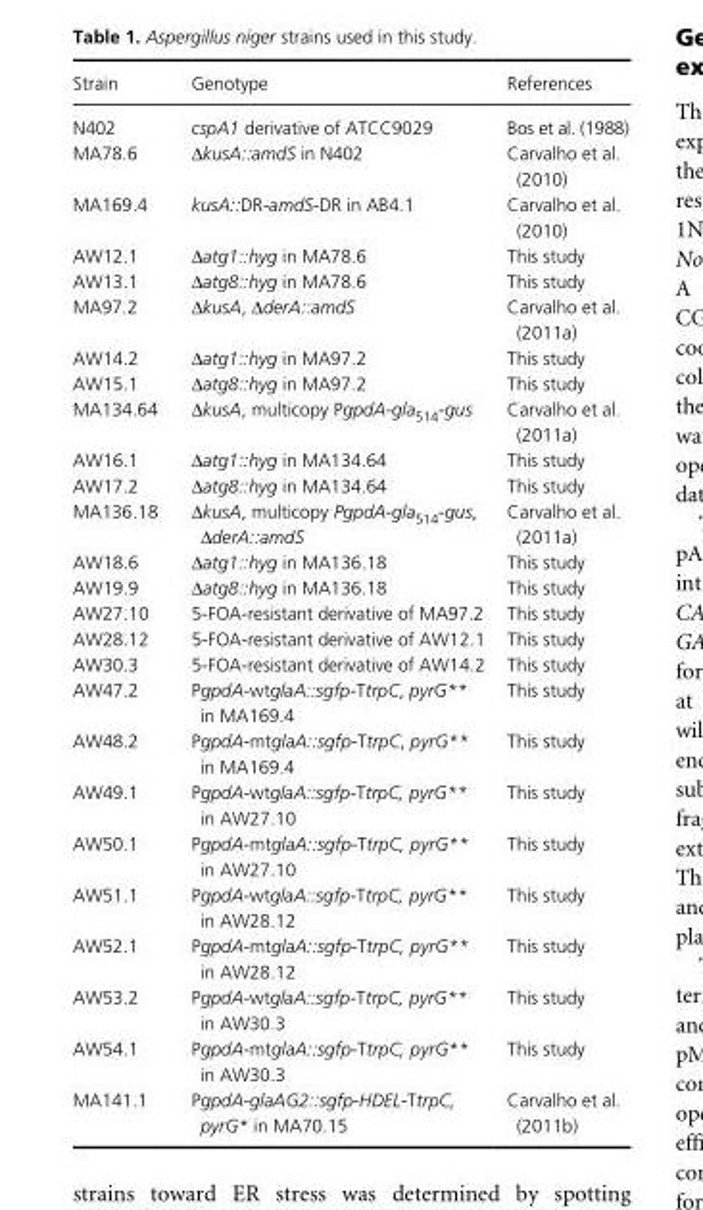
<table><thead><tr><td>Strain</td><td>Genotype</td><td>References</td></tr></thead><tbody><tr><td>N402</td><td>cspA1 derivative of ATCC9029</td><td>Bos et al. (1988)</td></tr><tr><td>MA78.6</td><td>ΔkusA::amdS in N402</td><td>Carvalho et al. (2010)</td></tr><tr><td>MA169.4</td><td>kusA::DR-amdS-DR in AB4.1</td><td>Carvalho et al. (2010)</td></tr><tr><td>AW12.1</td><td>Δatg1::hyg in MA78.6</td><td>This study</td></tr><tr><td>AW13.1</td><td>Δatg8::hyg in MA78.6</td><td>This study</td></tr><tr><td>MA97.2</td><td>ΔkusA, ΔderA::amdS</td><td>Carvalho et al. (2011a)</td></tr><tr><td>AW14.2</td><td>Δatg1::hyg in MA97.2</td><td>This study</td></tr><tr><td>AW15.1</td><td>Δatg8::hyg in MA97.2</td><td>This study</td></tr><tr><td>MA134.64</td><td>ΔkusA, multicopy PgpdA- gla<sub>514</sub>- gus</td><td>Carvalho et al. (2011a)</td></tr><tr><td>AW16.1</td><td>Δatg1::hyg in MA134.64</td><td>This study</td></tr><tr><td>AW17.2</td><td>Δatg8::hyg in MA134.64</td><td>This study</td></tr><tr><td>MA136.18</td><td>ΔkusA, multicopy PgpdA-gla<sub>514</sub>- gus, ΔderA::amdS</td><td>Carvalho et al. (2011a)</td></tr><tr><td>AW18.6</td><td>Δatg1::hyg in MA136.18</td><td>This study</td></tr><tr><td>AW19.9</td><td>Δatg8::hyg in MA136.18</td><td>This study</td></tr><tr><td>AW27.10</td><td>5-FOA- resistant derivative of MA97.2</td><td>This study</td></tr><tr><td>AW28.12</td><td>5-FOA- resistant derivative of AW12.1</td><td>This study</td></tr><tr><td>AW30.3</td><td>5-FOA- resistant derivative of AW14.2</td><td>This study</td></tr><tr><td>AW47.2</td><td>PgpdA-wtglaA::sgfp-TtrpC, pyrG** in MA169.4</td><td>This study</td></tr><tr><td>AW48.2</td><td>PgpdA-mtglaA::sgfp-TtrpC, pyrG** in MA169.4</td><td>This study</td></tr><tr><td>AW49.1</td><td>PgpdA-wtglaA::sgfp-TtrpC, pyrG** in AW27.10</td><td>This study</td></tr><tr><td>AW50.1</td><td>PgpdA-mtglaA::sgfp-TtrpC, pyrG** in AW27.10</td><td>This study</td></tr><tr><td>AW51.1</td><td>PgpdA-wtglaA::sgfp-TtrpC, pyrG** in AW28.12</td><td>This study</td></tr><tr><td>AW52.1</td><td>PgpdA-mtglaA::sgfp-TtrpC, pyrG** in AW28.12</td><td>This study</td></tr><tr><td>AW53.2</td><td>PgpdA-wtglaA::sgfp-TtrpC, pyrG** in AW30.3</td><td>This study</td></tr><tr><td>AW54.1</td><td>PgpdA-mtglaA::sgfp-TtrpC, pyrG** in AW30.3</td><td>This study</td></tr><tr><td>MA141.1</td><td>PgpdA-glaAG2::sgfp-HDEL-TtrpC, pyrG* in MA70.15</td><td>Carvalho et al. (2011b)</td></tr></tbody></table>